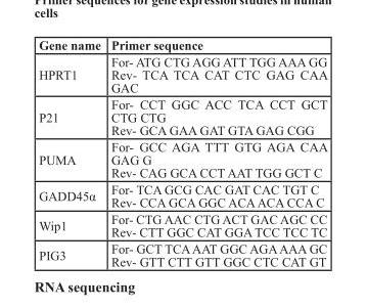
<table><thead><tr><td>Gene name</td><td>Primer sequence</td></tr></thead><tbody><tr><td>HPRT1</td><td>For- ATG CTG AGG ATT TGG AAA GG Rev- TCA TCA CAT CTC GAG CAA GAC</td></tr><tr><td>P21</td><td>For- CCT GGC ACC TCA CCT GCT CTG CTG Rev- GCA GAA GAT GTA GAG CGG</td></tr><tr><td>PUMA</td><td>For- GCC AGA TTT GTG AGA CAA GAG G Rev- CAG GCA CCT AAT TGG GCT C</td></tr><tr><td>GADD45α</td><td>For- TCA GCG CAC GAT CAC TGT C Rev- CCA GCA GGC ACA ACA CCA C</td></tr><tr><td>Wip1</td><td>For- CTG AAC CTG ACT GAC AGC CC Rev- CTT GGC CAT GGA TCC TCC TC</td></tr><tr><td>PIG3</td><td>For- GCT TCA AAT GGC AGA AAA GC Rev- GTT CTT GTT GGC CTC CAT GT</td></tr></tbody></table>